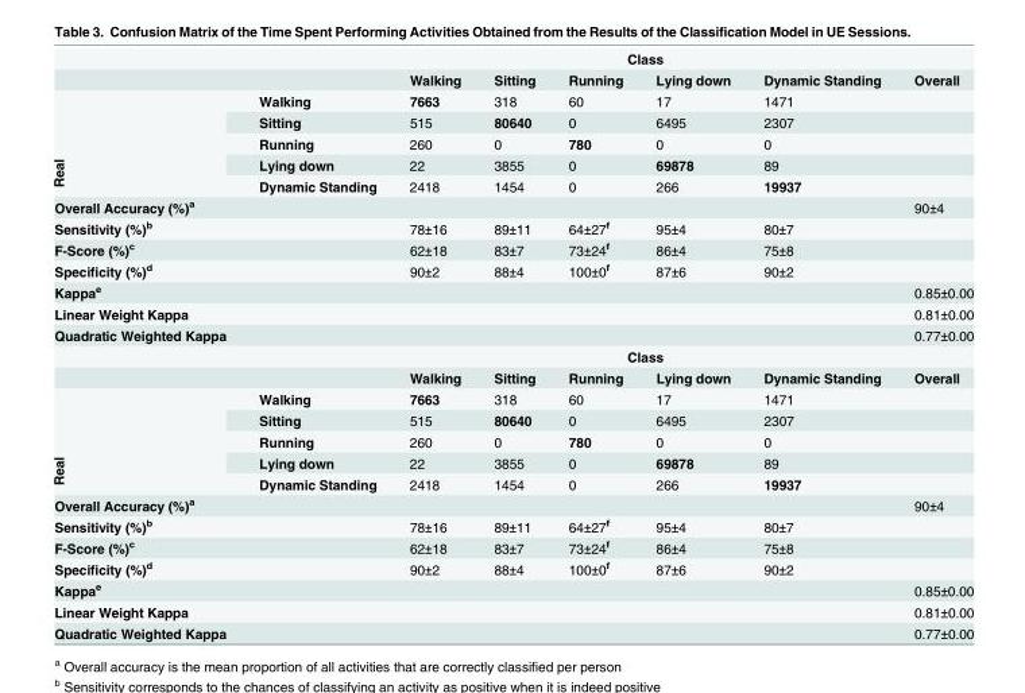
<table><thead><tr><td rowspan="2"></td><td rowspan="2"></td><td colspan="5">Class</td><td rowspan="2">Overall</td></tr><tr><td>Walking</td><td>Sitting</td><td>Running</td><td>Lying down</td><td>Dynamic Standing</td></tr></thead><tbody><tr><td rowspan="5">Real</td><td>Walking</td><td>7663</td><td>318</td><td>60</td><td>17</td><td>1471</td><td></td></tr><tr><td>Sitting</td><td>515</td><td>80640</td><td>0</td><td>6495</td><td>2307</td><td></td></tr><tr><td>Running</td><td>260</td><td>0</td><td>780</td><td>0</td><td>0</td><td></td></tr><tr><td>Lying down</td><td>22</td><td>3855</td><td>0</td><td>69878</td><td>89</td><td></td></tr><tr><td>Dynamic Standing</td><td>2418</td><td>1454</td><td>0</td><td>266</td><td>19937</td><td></td></tr><tr><td>Overall Accuracy (%)<sup>a</sup></td><td></td><td></td><td></td><td></td><td></td><td></td><td>90±4</td></tr><tr><td>Sensitivity (%)<sup>b</sup></td><td></td><td>78±16</td><td>89±11</td><td>64±27<sup>f</sup></td><td>95±4</td><td>80±7</td><td></td></tr><tr><td>F-Score (%)<sup>c</sup></td><td></td><td>62±18</td><td>83±7</td><td>73±24<sup>f</sup></td><td>86±4</td><td>75±8</td><td></td></tr><tr><td>Specificity (%)<sup>d</sup></td><td></td><td>90±2</td><td>88±4</td><td>100±0<sup>f</sup></td><td>87±6</td><td>90±2</td><td></td></tr><tr><td>Kappa<sup>e</sup></td><td></td><td></td><td></td><td></td><td></td><td></td><td>0.85±0.00</td></tr><tr><td>Linear Weight Kappa</td><td></td><td></td><td></td><td></td><td></td><td></td><td>0.81±0.00</td></tr><tr><td rowspan="3">Quadratic Weighted Kappa</td><td></td><td></td><td></td><td></td><td></td><td></td><td>0.77±0.00</td></tr><tr><td></td><td colspan="5">Class</td><td></td></tr><tr><td></td><td>Walking</td><td>Sitting</td><td>Running</td><td>Lying down</td><td>Dynamic Standing</td><td>Overall</td></tr><tr><td rowspan="5">Real</td><td>Walking</td><td>7663</td><td>318</td><td>60</td><td>17</td><td>1471</td><td></td></tr><tr><td>Sitting</td><td>515</td><td>80640</td><td>0</td><td>6495</td><td>2307</td><td></td></tr><tr><td>Running</td><td>260</td><td>0</td><td>780</td><td>0</td><td>0</td><td></td></tr><tr><td>Lying down</td><td>22</td><td>3855</td><td>0</td><td>69878</td><td>89</td><td></td></tr><tr><td>Dynamic Standing</td><td>2418</td><td>1454</td><td>0</td><td>266</td><td>19937</td><td></td></tr><tr><td>Overall Accuracy (%)<sup>a</sup></td><td></td><td></td><td></td><td></td><td></td><td></td><td>90±4</td></tr><tr><td>Sensitivity (%)<sup>b</sup></td><td></td><td>78±16</td><td>89±11</td><td>64±27<sup>f</sup></td><td>95±4</td><td>80±7</td><td></td></tr><tr><td>F-Score (%)<sup>c</sup></td><td></td><td>62±18</td><td>83±7</td><td>73±24<sup>f</sup></td><td>86±4</td><td>75±8</td><td></td></tr><tr><td>Specificity (%)<sup>d</sup></td><td></td><td>90±2</td><td>88±4</td><td>100±0<sup>f</sup></td><td>87±6</td><td>90±2</td><td></td></tr><tr><td>Kappa<sup>e</sup></td><td></td><td></td><td></td><td></td><td></td><td></td><td>0.85±0.00</td></tr><tr><td>Linear Weight Kappa</td><td></td><td></td><td></td><td></td><td></td><td></td><td>0.81±0.00</td></tr><tr><td>Quadratic Weighted Kappa</td><td></td><td></td><td></td><td></td><td></td><td></td><td>0.77±0.00</td></tr></tbody></table>